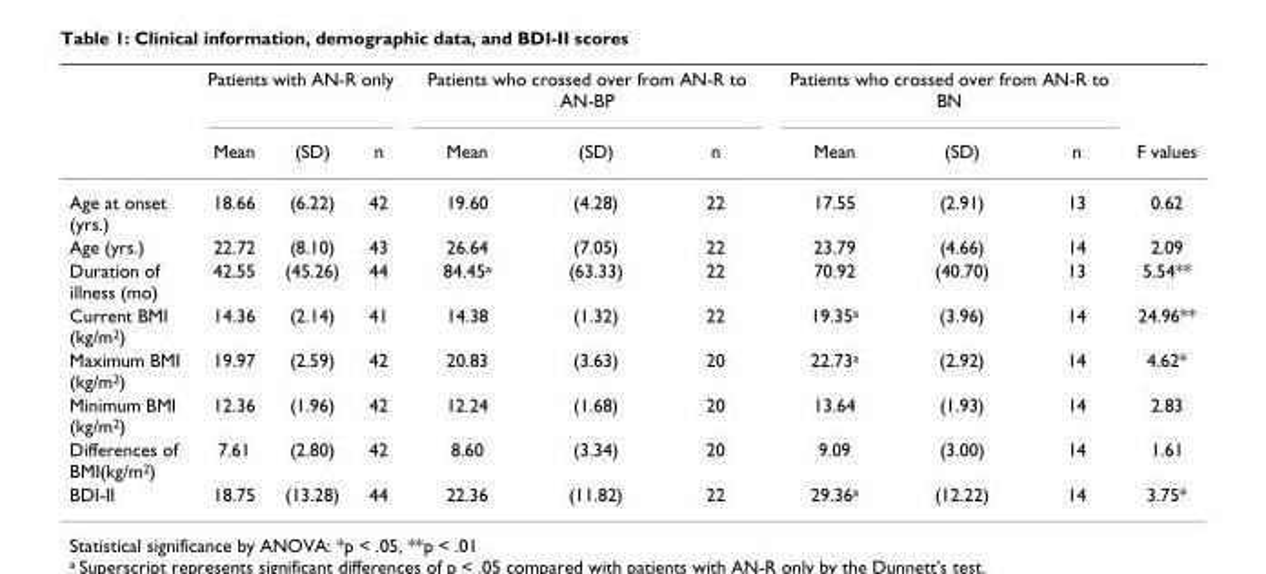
<table><thead><tr><td rowspan="2"></td><td colspan="3">Patients with AN-R only</td><td colspan="3">Patients who crossed over from AN-R to AN-BP</td><td colspan="3">Patients who crossed over from AN-R to BN</td><td rowspan="2">F values</td></tr><tr><td>Mean</td><td>(SD)</td><td>n</td><td>Mean</td><td>(SD)</td><td>n</td><td>Mean</td><td>(SD)</td><td>n</td></tr></thead><tbody><tr><td>Age at onset (yrs.)</td><td>18.66</td><td>(6.22)</td><td>42</td><td>19.60</td><td>(4.28)</td><td>22</td><td>17.55</td><td>(2.91)</td><td>13</td><td>0.62</td></tr><tr><td>Age (yrs.)</td><td>22.72</td><td>(8.10)</td><td>43</td><td>26.64</td><td>(7.05)</td><td>22</td><td>23.79</td><td>(4.66)</td><td>14</td><td>2.09</td></tr><tr><td>Duration of illness (mo)</td><td>42.55</td><td>(45.26)</td><td>44</td><td>84.45<sup>a</sup></td><td>(63.33)</td><td>22</td><td>70.92</td><td>(40.70)</td><td>13</td><td>5.54**</td></tr><tr><td>Current BMI (kg/m<sup>2</sup>)</td><td>14.36</td><td>(2.14)</td><td>41</td><td>14.38</td><td>(1.32)</td><td>22</td><td>19.35<sup>a</sup></td><td>(3.96)</td><td>14</td><td>24.96**</td></tr><tr><td>Maximum BMI (kg/m<sup>2</sup>)</td><td>19.97</td><td>(2.59)</td><td>42</td><td>20.83</td><td>(3.63)</td><td>20</td><td>22.73<sup>a</sup></td><td>(2.92)</td><td>14</td><td>4.62*</td></tr><tr><td>Minimum BMI (kg/m<sup>2</sup>)</td><td>12.36</td><td>(1.96)</td><td>42</td><td>12.24</td><td>(1.68)</td><td>20</td><td>13.64</td><td>(1.93)</td><td>14</td><td>2.83</td></tr><tr><td>Differences of BMI(kg/m<sup>2</sup>)</td><td>7.61</td><td>(2.80)</td><td>42</td><td>8.60</td><td>(3.34)</td><td>20</td><td>9.09</td><td>(3.00)</td><td>14</td><td>1.61</td></tr><tr><td>BDI-II</td><td>18.75</td><td>(13.28)</td><td>44</td><td>22.36</td><td>(11.82)</td><td>22</td><td>29.36<sup>a</sup></td><td>(12.22)</td><td>14</td><td>3.75*</td></tr></tbody></table>